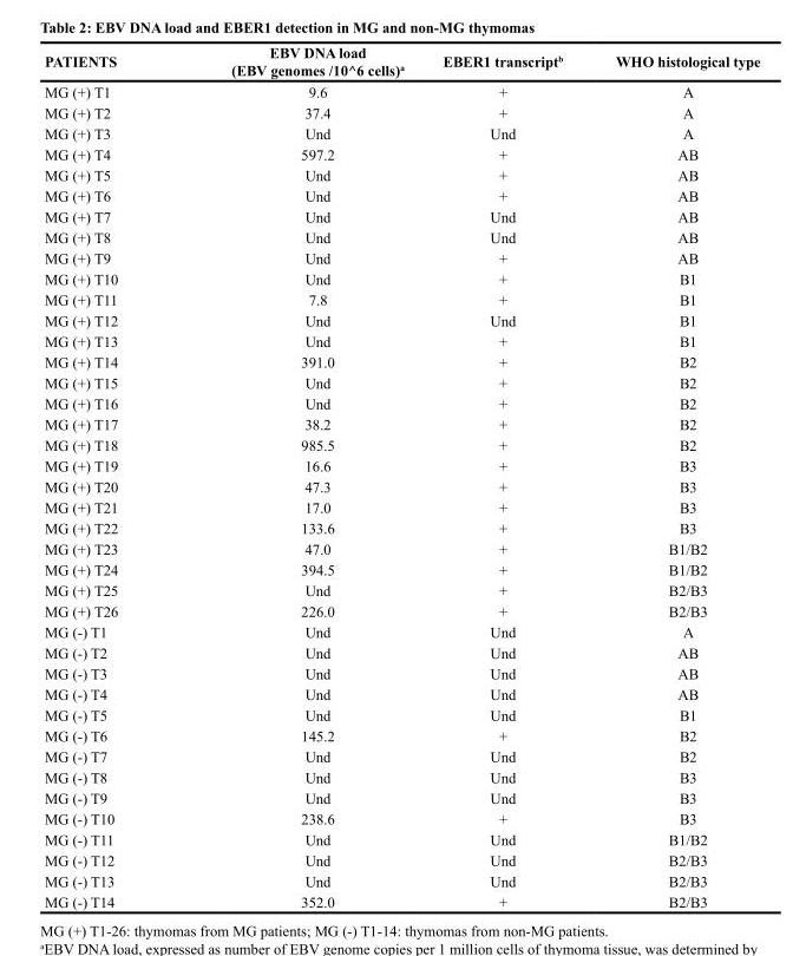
<table><thead><tr><td>PATIENTS</td><td>EBV DNA load (EBV genomes /10^6 cells)<sup>a</sup></td><td>EBER1 transcript<sup>b</sup></td><td>WHO histological type</td></tr></thead><tbody><tr><td>MG (+) T1</td><td>9.6</td><td>+</td><td>A</td></tr><tr><td>MG (+) T2</td><td>37.4</td><td>+</td><td>A</td></tr><tr><td>MG (+) T3</td><td>Und</td><td>Und</td><td>A</td></tr><tr><td>MG (+) T4</td><td>597.2</td><td>+</td><td>AB</td></tr><tr><td>MG (+) T5</td><td>Und</td><td>+</td><td>AB</td></tr><tr><td>MG (+) T6</td><td>Und</td><td>+</td><td>AB</td></tr><tr><td>MG (+) T7</td><td>Und</td><td>Und</td><td>AB</td></tr><tr><td>MG (+) T8</td><td>Und</td><td>Und</td><td>AB</td></tr><tr><td>MG (+) T9</td><td>Und</td><td>+</td><td>AB</td></tr><tr><td>MG (+) T10</td><td>Und</td><td>+</td><td>B1</td></tr><tr><td>MG (+) T11</td><td>7.8</td><td>+</td><td>B1</td></tr><tr><td>MG (+) T12</td><td>Und</td><td>Und</td><td>B1</td></tr><tr><td>MG (+) T13</td><td>Und</td><td>+</td><td>B1</td></tr><tr><td>MG (+) T14</td><td>391.0</td><td>+</td><td>B2</td></tr><tr><td>MG (+) T15</td><td>Und</td><td>+</td><td>B2</td></tr><tr><td>MG (+) T16</td><td>Und</td><td>+</td><td>B2</td></tr><tr><td>MG (+) T17</td><td>38.2</td><td>+</td><td>B2</td></tr><tr><td>MG (+) T18</td><td>985.5</td><td>+</td><td>B2</td></tr><tr><td>MG (+) T19</td><td>16.6</td><td>+</td><td>B3</td></tr><tr><td>MG (+) T20</td><td>47.3</td><td>+</td><td>B3</td></tr><tr><td>MG (+) T21</td><td>17.0</td><td>+</td><td>B3</td></tr><tr><td>MG (+) T22</td><td>133.6</td><td>+</td><td>B3</td></tr><tr><td>MG (+) T23</td><td>47.0</td><td>+</td><td>B1/B2</td></tr><tr><td>MG (+) T24</td><td>394.5</td><td>+</td><td>B1/B2</td></tr><tr><td>MG (+) T25</td><td>Und</td><td>+</td><td>B2/B3</td></tr><tr><td>MG (+) T26</td><td>226.0</td><td>+</td><td>B2/B3</td></tr><tr><td>MG (-) T1</td><td>Und</td><td>Und</td><td>A</td></tr><tr><td>MG (-) T2</td><td>Und</td><td>Und</td><td>AB</td></tr><tr><td>MG (-) T3</td><td>Und</td><td>Und</td><td>AB</td></tr><tr><td>MG (-) T4</td><td>Und</td><td>Und</td><td>AB</td></tr><tr><td>MG (-) T5</td><td>Und</td><td>Und</td><td>B1</td></tr><tr><td>MG (-) T6</td><td>145.2</td><td>+</td><td>B2</td></tr><tr><td>MG (-) T7</td><td>Und</td><td>Und</td><td>B2</td></tr><tr><td>MG (-) T8</td><td>Und</td><td>Und</td><td>B3</td></tr><tr><td>MG (-) T9</td><td>Und</td><td>Und</td><td>B3</td></tr><tr><td>MG (-) T10</td><td>238.6</td><td>+</td><td>B3</td></tr><tr><td>MG (-) T11</td><td>Und</td><td>Und</td><td>B1/B2</td></tr><tr><td>MG (-) T12</td><td>Und</td><td>Und</td><td>B2/B3</td></tr><tr><td>MG (-) T13</td><td>Und</td><td>Und</td><td>B2/B3</td></tr><tr><td>MG (-) T14</td><td>352.0</td><td>+</td><td>B2/B3</td></tr></tbody></table>